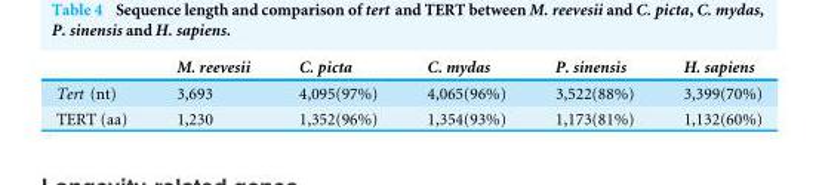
<table><thead><tr><td></td><td>M. reevesii</td><td>C. picta</td><td>C. mydas</td><td>P. sinensis</td><td>H. sapiens</td></tr></thead><tbody><tr><td>Tert (nt)</td><td>3,693</td><td>4,095(97%)</td><td>4,065(96%)</td><td>3,522(88%)</td><td>3,399(70%)</td></tr><tr><td>TERT (aa)</td><td>1,230</td><td>1,352(96%)</td><td>1,354(93%)</td><td>1,173(81%)</td><td>1,132(60%)</td></tr></tbody></table>